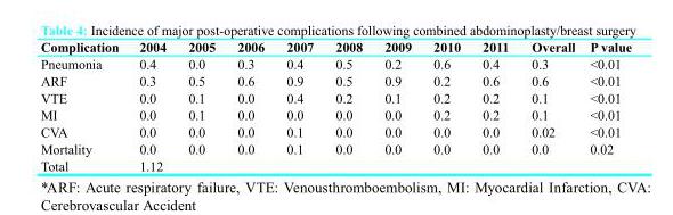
<table><thead><tr><td>Complication</td><td>2004</td><td>2005</td><td>2006</td><td>2007</td><td>2008</td><td>2009</td><td>2010</td><td>2011</td><td>Overall</td><td>P value</td></tr></thead><tbody><tr><td>Pneumonia</td><td>0.4</td><td>0.0</td><td>0.3</td><td>0.4</td><td>0.5</td><td>0.2</td><td>0.6</td><td>0.4</td><td>0.3</td><td>&lt;0.01</td></tr><tr><td>ARF</td><td>0.3</td><td>0.5</td><td>0.6</td><td>0.9</td><td>0.5</td><td>0.9</td><td>0.2</td><td>0.6</td><td>0.6</td><td>&lt;0.01</td></tr><tr><td>VTE</td><td>0.0</td><td>0.1</td><td>0.0</td><td>0.4</td><td>0.2</td><td>0.1</td><td>0.2</td><td>0.2</td><td>0.1</td><td>&lt;0.01</td></tr><tr><td>MI</td><td>0.0</td><td>0.1</td><td>0.0</td><td>0.0</td><td>0.0</td><td>0.0</td><td>0.2</td><td>0.2</td><td>0.1</td><td>&lt;0.01</td></tr><tr><td>CVA</td><td>0.0</td><td>0.0</td><td>0.0</td><td>0.1</td><td>0.0</td><td>0.0</td><td>0.0</td><td>0.0</td><td>0.02</td><td>&lt;0.01</td></tr><tr><td>Mortality</td><td>0.0</td><td>0.0</td><td>0.0</td><td>0.1</td><td>0.0</td><td>0.0</td><td>0.0</td><td>0.0</td><td>0.0</td><td>0.02</td></tr><tr><td>Total</td><td colspan="10">1.12</td></tr></tbody></table>